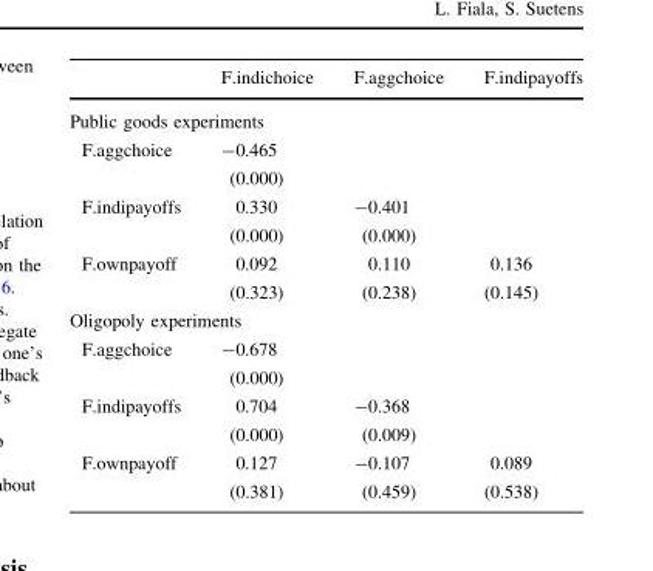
<table><thead><tr><td></td><td>F.indichoice</td><td>F.aggchoice</td><td>F.indipayoffs</td></tr></thead><tbody><tr><td colspan="4">Public goods experiments</td></tr><tr><td rowspan="2">F.aggchoice</td><td>-0.465</td><td></td><td></td></tr><tr><td>(0.000)</td><td></td><td></td></tr><tr><td rowspan="2">F.indipayoffs</td><td>0.330</td><td>-0.401</td><td></td></tr><tr><td>(0.000)</td><td>(0.000)</td><td></td></tr><tr><td rowspan="2">F.ownpayoff</td><td>0.092</td><td>0.110</td><td>0.136</td></tr><tr><td>(0.323)</td><td>(0.238)</td><td>(0.145)</td></tr><tr><td colspan="4">Oligopoly experiments</td></tr><tr><td rowspan="2">F.aggchoice</td><td>-0.678</td><td></td><td></td></tr><tr><td>(0.000)</td><td></td><td></td></tr><tr><td rowspan="2">F.indipayoffs</td><td>0.704</td><td>-0.368</td><td></td></tr><tr><td>(0.000)</td><td>(0.009)</td><td></td></tr><tr><td rowspan="2">F.ownpayoff</td><td>0.127</td><td>-0.107</td><td>0.089</td></tr><tr><td>(0.381)</td><td>(0.459)</td><td>(0.538)</td></tr></tbody></table>